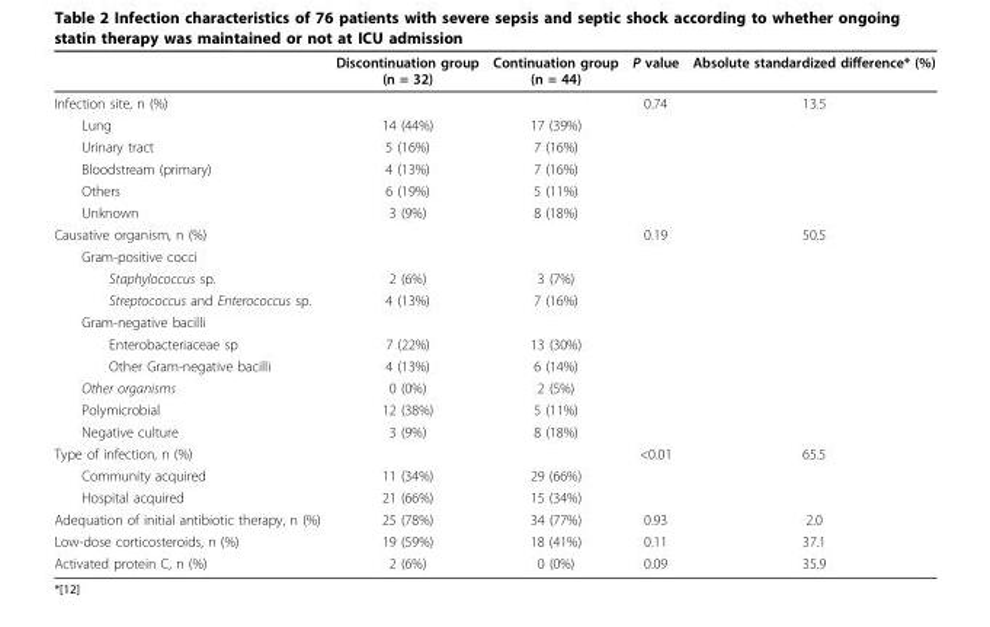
<table><thead><tr><td></td><td>Discontinuation group (n = 32)</td><td>Continuation group (n = 44)</td><td>P value</td><td>Absolute standardized difference* (%)</td></tr></thead><tbody><tr><td>Infection site, n (%)</td><td></td><td></td><td>0.74</td><td>13.5</td></tr><tr><td>Lung</td><td>14 (44%)</td><td>17 (39%)</td><td></td><td></td></tr><tr><td>Urinary tract</td><td>5 (16%)</td><td>7 (16%)</td><td></td><td></td></tr><tr><td>Bloodstream (primary)</td><td>4 (13%)</td><td>7 (16%)</td><td></td><td></td></tr><tr><td>Others</td><td>6 (19%)</td><td>5 (11%)</td><td></td><td></td></tr><tr><td>Unknown</td><td>3 (9%)</td><td>8 (18%)</td><td></td><td></td></tr><tr><td>Causative organism, n (%)</td><td></td><td></td><td>0.19</td><td>50.5</td></tr><tr><td colspan="5">Gram-positive cocci</td></tr><tr><td>Staphylococcus sp.</td><td>2 (6%)</td><td>3 (7%)</td><td></td><td></td></tr><tr><td>Streptococcus and Enterococcus sp.</td><td>4 (13%)</td><td>7 (16%)</td><td></td><td></td></tr><tr><td colspan="5">Gram-negative bacilli</td></tr><tr><td>Enterobacteriaceae sp</td><td>7 (22%)</td><td>13 (30%)</td><td></td><td></td></tr><tr><td>Other Gram-negative bacilli</td><td>4 (13%)</td><td>6 (14%)</td><td></td><td></td></tr><tr><td>Other organisms</td><td>0 (0%)</td><td>2 (5%)</td><td></td><td></td></tr><tr><td>Polymicrobial</td><td>12 (38%)</td><td>5 (11%)</td><td></td><td></td></tr><tr><td>Negative culture</td><td>3 (9%)</td><td>8 (18%)</td><td></td><td></td></tr><tr><td>Type of infection, n (%)</td><td></td><td></td><td>&lt;0.01</td><td>65.5</td></tr><tr><td>Community acquired</td><td>11 (34%)</td><td>29 (66%)</td><td></td><td></td></tr><tr><td>Hospital acquired</td><td>21 (66%)</td><td>15 (34%)</td><td></td><td></td></tr><tr><td>Adequation of initial antibiotic therapy, n (%)</td><td>25 (78%)</td><td>34 (77%)</td><td>0.93</td><td>2.0</td></tr><tr><td>Low-dose corticosteroids, n (%)</td><td>19 (59%)</td><td>18 (41%)</td><td>0.11</td><td>37.1</td></tr><tr><td>Activated protein C, n (%)</td><td>2 (6%)</td><td>0 (0%)</td><td>0.09</td><td>35.9</td></tr></tbody></table>